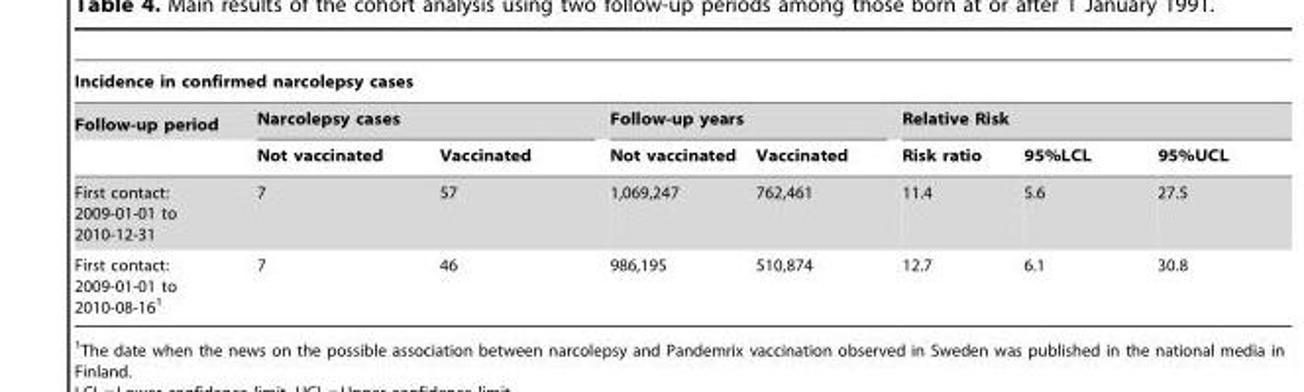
<table><thead><tr><td colspan="8">Incidence in confirmed narcolepsy cases</td></tr><tr><td rowspan="2">Follow-up period</td><td colspan="2">Narcolepsy cases</td><td colspan="2">Follow-up years</td><td colspan="3">Relative Risk</td></tr><tr><td>Not vaccinated</td><td>Vaccinated</td><td>Not vaccinated</td><td>Vaccinated</td><td>Risk ratio</td><td>95%LCL</td><td>95%UCL</td></tr></thead><tbody><tr><td>First contact: 2009-01-01 to 2010-12-31</td><td>7</td><td>57</td><td>1,069,247</td><td>762,461</td><td>11.4</td><td>5.6</td><td>27.5</td></tr><tr><td>First contact: 2009-01-01 to 2010-08-16<sup>1</sup></td><td>7</td><td>46</td><td>986,195</td><td>510,874</td><td>12.7</td><td>6.1</td><td>30.8</td></tr></tbody></table>